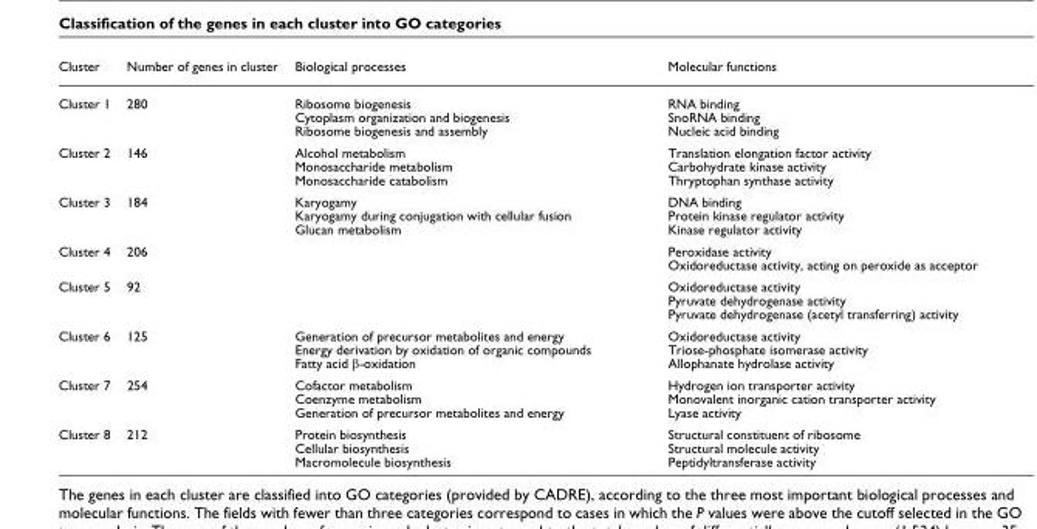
<table><thead><tr><td>Cluster</td><td>Number of genes in cluster</td><td>Biological processes</td><td>Molecular functions</td></tr></thead><tbody><tr><td>Cluster 1</td><td>280</td><td>Ribosome biogenesis Cytoplasm organization and biogenesis Ribosome biogenesis and assembly</td><td>RNA binding SnoRNA binding Nucleic acid binding</td></tr><tr><td>Cluster 2</td><td>146</td><td>Alcohol metabolism Monosaccharide metabolism Monosaccharide catabolism</td><td>Translation elongation factor activity Carbohydrate kinase activity Thryptophan synthase activity</td></tr><tr><td>Cluster 3</td><td>184</td><td>Karyogamy Karyogamy during conjugation with cellular fusion Glucan metabolism</td><td>DNA binding Protein kinase regulator activity Kinase regulator activity</td></tr><tr><td>Cluster 4</td><td>206</td><td></td><td>Peroxidase activity Oxidoreductase activity, acting on peroxide as acceptor</td></tr><tr><td>Cluster 5</td><td>92</td><td></td><td>Oxidoreductase activity Pyruvate dehydrogenase activity Pyruvate dehydrogenase (acetyl transferring) activity</td></tr><tr><td>Cluster 6</td><td>125</td><td>Generation of precursor metabolites and energy Energy derivation by oxidation of organic compounds Fatty acid β-oxidation</td><td>Oxidoreductase activity Triose-phosphate isomerase activity Allophanate hydrolase activity</td></tr><tr><td>Cluster 7</td><td>254</td><td>Cofactor metabolism Coenzyme metabolism Generation of precursor metabolites and energy</td><td>Hydrogen ion transporter activity Monovalent inorganic cation transporter activity Lyase activity</td></tr><tr><td>Cluster 8</td><td>212</td><td>Protein biosynthesis Cellular biosynthesis Macromolecule biosynthesis</td><td>Structural constituent of ribosome Structural molecule activity Peptidyltransferase activity</td></tr></tbody></table>